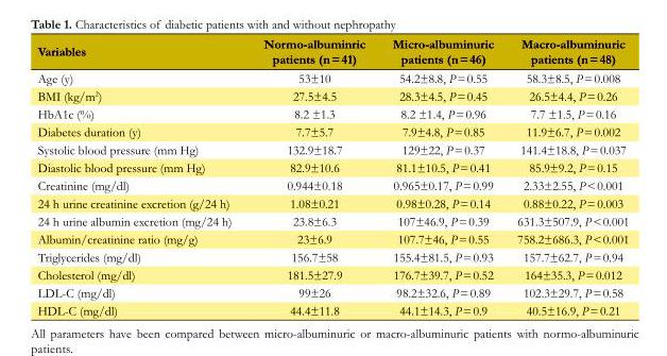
<table><tbody><tr><td>Variables</td><td>Normo-albuminric patients (n = 41)</td><td>Micro-albuminuric patients (n = 46)</td><td>Macro-albuminuric patients (n = 48)</td></tr><tr><td>Age (y)</td><td>53±10</td><td>54.2±8.8, P = 0.55</td><td>58.3±8.5, P = 0.008</td></tr><tr><td>BMI (kg/m<sup>2</sup>)</td><td>27.5±4.5</td><td>28.3±4.5, P = 0.45</td><td>26.5±4.4, P = 0.26</td></tr><tr><td>HbA1c (%)</td><td>8.2 ±1.3</td><td>8.2 ±1.4, P = 0.96</td><td>7.7 ±1.5, P = 0.16</td></tr><tr><td>Diabetes duration (y)</td><td>7.7±5.7</td><td>7.9±4.8, P = 0.85</td><td>11.9±6.7, P = 0.002</td></tr><tr><td>Systolic blood pressure (mm Hg)</td><td>132.9±18.7</td><td>129±22, P = 0.37</td><td>141.4±18.8, P = 0.037</td></tr><tr><td>Diastolic blood pressure (mm Hg)</td><td>82.9±10.6</td><td>81.1±10.5, P = 0.41</td><td>85.9±9.2, P = 0.15</td></tr><tr><td>Creatinine (mg/dl)</td><td>0.944±0.18</td><td>0.965±0.17, P = 0.99</td><td>2.33±2.55, P &lt; 0.001</td></tr><tr><td>24 h urine creatinine excretion (g/24 h)</td><td>1.08±0.21</td><td>0.98±0.28, P = 0.14</td><td>0.88±0.22, P = 0.003</td></tr><tr><td>24 h urine albumin excretion (mg/24 h)</td><td>23.8±6.3</td><td>107±46.9, P = 0.39</td><td>631.3±507.9, P &lt; 0.001</td></tr><tr><td>Albumin/creatinine ratio (mg/g)</td><td>23±6.9</td><td>107.7±46, P = 0.55</td><td>758.2±686.3, P &lt; 0.001</td></tr><tr><td>Triglycerides (mg/dl)</td><td>156.7±58</td><td>155.4±81.5, P = 0.93</td><td>157.7±62.7, P = 0.94</td></tr><tr><td>Cholesterol (mg/dl)</td><td>181.5±27.9</td><td>176.7±39.7, P = 0.52</td><td>164±35.3, P = 0.012</td></tr><tr><td>LDL-C (mg/dl)</td><td>99±26</td><td>98.2±32.6, P = 0.89</td><td>102.3±29.7, P = 0.58</td></tr><tr><td>HDL-C (mg/dl)</td><td>44.4±11.8</td><td>44.1±14.3, P = 0.9</td><td>40.5±16.9, P = 0.21</td></tr></tbody></table>